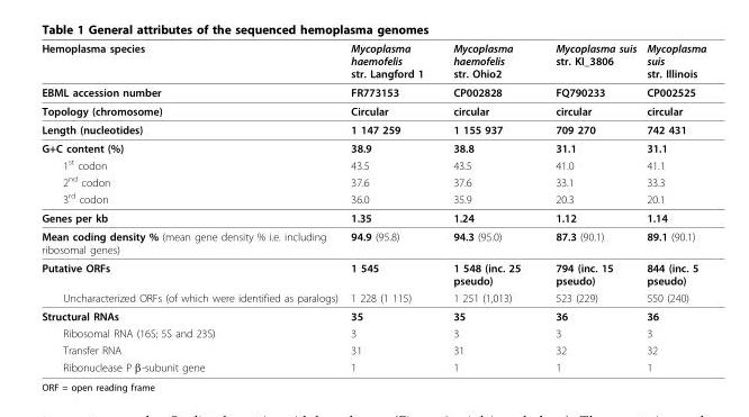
<table><thead><tr><td>Hemoplasma species</td><td>Mycoplasma haemofelis str. Langford 1</td><td>Mycoplasma haemofelis str. Ohio2</td><td>Mycoplasma suis str. KI_3806</td><td>Mycoplasma suis str. Illinois</td></tr></thead><tbody><tr><td>EBML accession number</td><td>FR773153</td><td>CP002828</td><td>FQ790233</td><td>CP002525</td></tr><tr><td>Topology (chromosome)</td><td>Circular</td><td>circular</td><td>circular</td><td>circular</td></tr><tr><td>Length (nucleotides)</td><td>1 147 259</td><td>1 155 937</td><td>709 270</td><td>742 431</td></tr><tr><td>G+C content (%)</td><td>38.9</td><td>38.8</td><td>31.1</td><td>31.1</td></tr><tr><td>1<sup>st</sup> codon</td><td>43.5</td><td>43.5</td><td>41.0</td><td>41.1</td></tr><tr><td>2<sup>nd</sup> codon</td><td>37.6</td><td>37.6</td><td>33.1</td><td>33.3</td></tr><tr><td>3<sup>rd</sup> codon</td><td>36.0</td><td>35.9</td><td>20.3</td><td>20.1</td></tr><tr><td>Genes per kb</td><td>1.35</td><td>1.24</td><td>1.12</td><td>1.14</td></tr><tr><td>Mean coding density % (mean gene density % i.e. including ribosomal genes)</td><td>94.9 (95.8)</td><td>94.3 (95.0)</td><td>87.3 (90.1)</td><td>89.1 (90.1)</td></tr><tr><td>Putative ORFs</td><td>1 545</td><td>1 548 (inc. 25 pseudo)</td><td>794 (inc. 15 pseudo)</td><td>844 (inc. 5 pseudo)</td></tr><tr><td>Uncharacterized ORFs (of which were identified as paralogs)</td><td>1 228 (1 115)</td><td>1 251 (1,013)</td><td>523 (229)</td><td>550 (240)</td></tr><tr><td>Structural RNAs</td><td>35</td><td>35</td><td>36</td><td>36</td></tr><tr><td>Ribosomal RNA (16S; 5S and 23S)</td><td>3</td><td>3</td><td>3</td><td>3</td></tr><tr><td>Transfer RNA</td><td>31</td><td>31</td><td>32</td><td>32</td></tr><tr><td>Ribonuclease P β-subunit gene</td><td>1</td><td>1</td><td>1</td><td>1</td></tr></tbody></table>